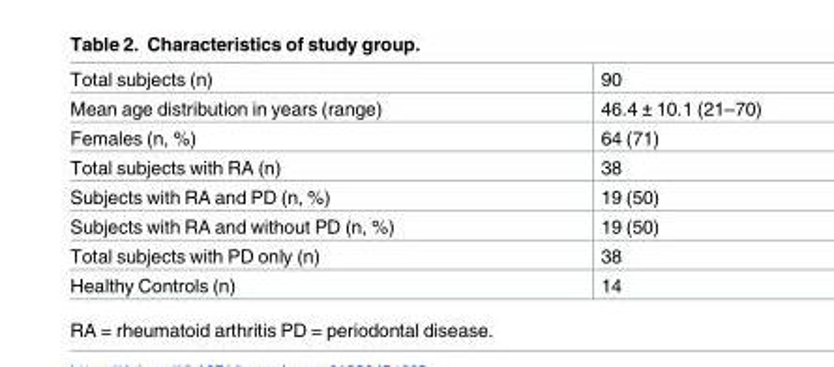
<table><tbody><tr><td>Total subjects (n)</td><td>90</td></tr><tr><td>Mean age distribution in years (range)</td><td>46.4 ± 10.1 (21–70)</td></tr><tr><td>Females (n, %)</td><td>64 (71)</td></tr><tr><td>Total subjects with RA (n)</td><td>38</td></tr><tr><td>Subjects with RA and PD (n, %)</td><td>19 (50)</td></tr><tr><td>Subjects with RA and without PD (n, %)</td><td>19 (50)</td></tr><tr><td>Total subjects with PD only (n)</td><td>38</td></tr><tr><td>Healthy Controls (n)</td><td>14</td></tr></tbody></table>